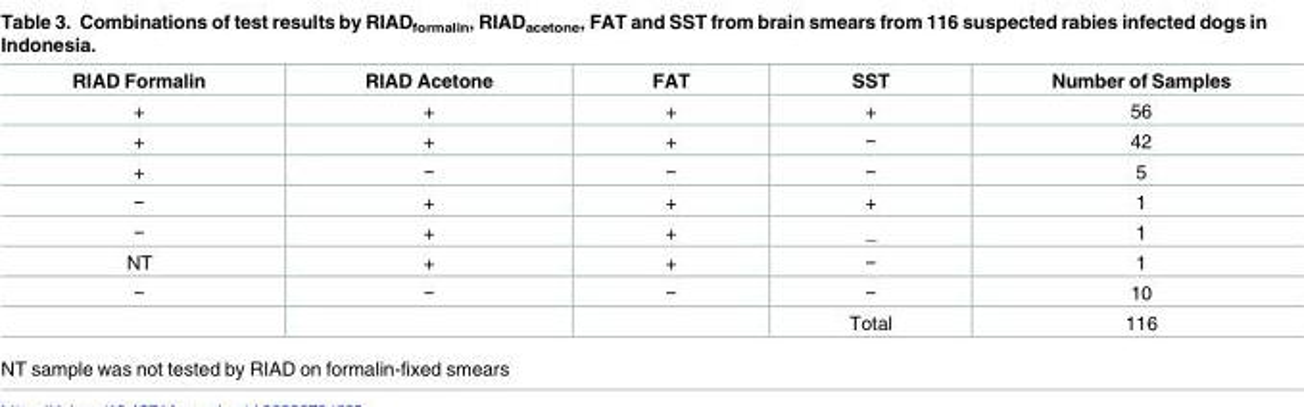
<table><thead><tr><td>RIAD Formalin</td><td>RIAD Acetone</td><td>FAT</td><td>SST</td><td>Number of Samples</td></tr></thead><tbody><tr><td>+</td><td>+</td><td>+</td><td>+</td><td>56</td></tr><tr><td>+</td><td>+</td><td>+</td><td>−</td><td>42</td></tr><tr><td>+</td><td>−</td><td>−</td><td>−</td><td>5</td></tr><tr><td>−</td><td>+</td><td>+</td><td>+</td><td>1</td></tr><tr><td>−</td><td>+</td><td>+</td><td>_</td><td>1</td></tr><tr><td>NT</td><td>+</td><td>+</td><td>−</td><td>1</td></tr><tr><td rowspan="2">−</td><td>−</td><td>−</td><td>−</td><td>10</td></tr><tr><td></td><td></td><td>Total</td><td>116</td></tr></tbody></table>